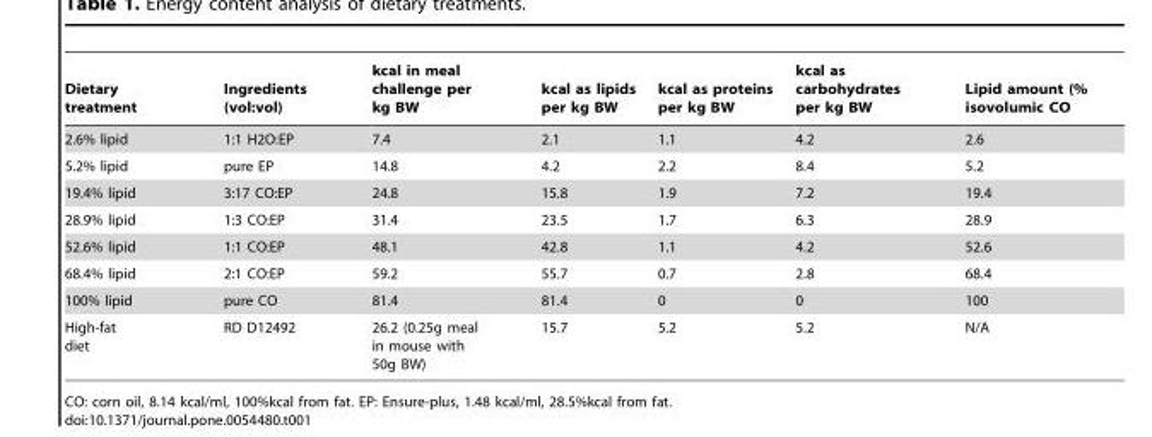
<table><thead><tr><td>Dietary treatment</td><td>Ingredients (vol:vol)</td><td>kcal in meal challenge per kg BW</td><td>kcal as lipids per kg BW</td><td>kcal as proteins per kg BW</td><td>kcal as carbohydrates per kg BW</td><td>Lipid amount (% isovolumic CO</td></tr></thead><tbody><tr><td>2.6% lipid</td><td>1:1 H2O:EP</td><td>7.4</td><td>2.1</td><td>1.1</td><td>4.2</td><td>2.6</td></tr><tr><td>5.2% lipid</td><td>pure EP</td><td>14.8</td><td>4.2</td><td>2.2</td><td>8.4</td><td>5.2</td></tr><tr><td>19.4% lipid</td><td>3:17 CO:EP</td><td>24.8</td><td>15.8</td><td>1.9</td><td>7.2</td><td>19.4</td></tr><tr><td>28.9% lipid</td><td>1:3 CO:EP</td><td>31.4</td><td>23.5</td><td>1.7</td><td>6.3</td><td>28.9</td></tr><tr><td>52.6% lipid</td><td>1:1 CO:EP</td><td>48.1</td><td>42.8</td><td>1.1</td><td>4.2</td><td>52.6</td></tr><tr><td>68.4% lipid</td><td>2:1 CO:EP</td><td>59.2</td><td>55.7</td><td>0.7</td><td>2.8</td><td>68.4</td></tr><tr><td>100% lipid</td><td>pure CO</td><td>81.4</td><td>81.4</td><td>0</td><td>0</td><td>100</td></tr><tr><td>High-fat diet</td><td>RD D12492</td><td>26.2 (0.25g meal in mouse with 50g BW)</td><td>15.7</td><td>5.2</td><td>5.2</td><td>N/A</td></tr></tbody></table>